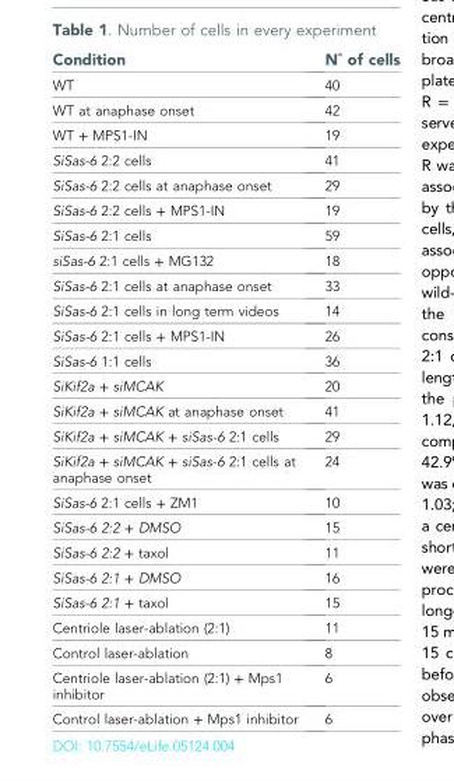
<table><thead><tr><td>Condition</td><td>N˚ of cells</td></tr></thead><tbody><tr><td>WT</td><td>40</td></tr><tr><td>WT at anaphase onset</td><td>42</td></tr><tr><td>WT + MPS1-IN</td><td>19</td></tr><tr><td>SiSas-6 2:2 cells</td><td>41</td></tr><tr><td>SiSas-6 2:2 cells at anaphase onset</td><td>29</td></tr><tr><td>SiSas-6 2:2 cells + MPS1-IN</td><td>19</td></tr><tr><td>SiSas-6 2:1 cells</td><td>59</td></tr><tr><td>siSas-6 2:1 cells + MG132</td><td>18</td></tr><tr><td>SiSas-6 2:1 cells at anaphase onset</td><td>33</td></tr><tr><td>SiSas-6 2:1 cells in long term videos</td><td>14</td></tr><tr><td>SiSas-6 2:1 cells + MPS1-IN</td><td>26</td></tr><tr><td>SiSas-6 1:1 cells</td><td>36</td></tr><tr><td>SiKif2a + siMCAK</td><td>20</td></tr><tr><td>SiKif2a + siMCAK at anaphase onset</td><td>41</td></tr><tr><td>SiKif2a + siMCAK + siSas-6 2:1 cells</td><td>29</td></tr><tr><td>SiKif2a + siMCAK + siSas-6 2:1 cells at anaphase onset</td><td>24</td></tr><tr><td>SiSas-6 2:1 cells + ZM1</td><td>10</td></tr><tr><td>SiSas-6 2:2 + DMSO</td><td>15</td></tr><tr><td>SiSas-6 2:2 + taxol</td><td>11</td></tr><tr><td>SiSas-6 2:1 + DMSO</td><td>16</td></tr><tr><td>SiSas-6 2:1 + taxol</td><td>15</td></tr><tr><td>Centriole laser-ablation (2:1)</td><td>11</td></tr><tr><td>Control laser-ablation</td><td>8</td></tr><tr><td>Centriole laser-ablation (2:1) + Mps1 inhibitor</td><td>6</td></tr><tr><td>Control laser-ablation + Mps1 inhibitor</td><td>6</td></tr></tbody></table>